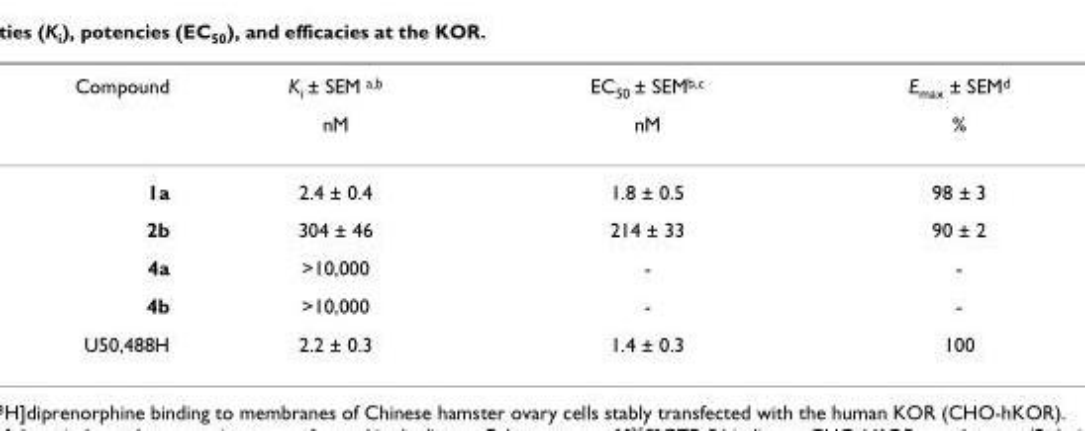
<table><thead><tr><td rowspan="2">Compound</td><td rowspan="2">Ki ± SEM a,b nM</td><td rowspan="2">EC50 ± SEMb,c nM</td><td rowspan="2">Emax ± SEMd %</td></tr><tr></tr></thead><tbody><tr><td>1a</td><td>2.4 ± 0.4</td><td>1.8 ± 0.5</td><td>98 ± 3</td></tr><tr><td>2b</td><td>304 ± 46</td><td>214 ± 33</td><td>90 ± 2</td></tr><tr><td>4a</td><td>&gt;10,000</td><td>-</td><td>-</td></tr><tr><td>4b</td><td>&gt;10,000</td><td>-</td><td>-</td></tr><tr><td>U50,488H</td><td>2.2 ± 0.3</td><td>1.4 ± 0.3</td><td>100</td></tr></tbody></table>